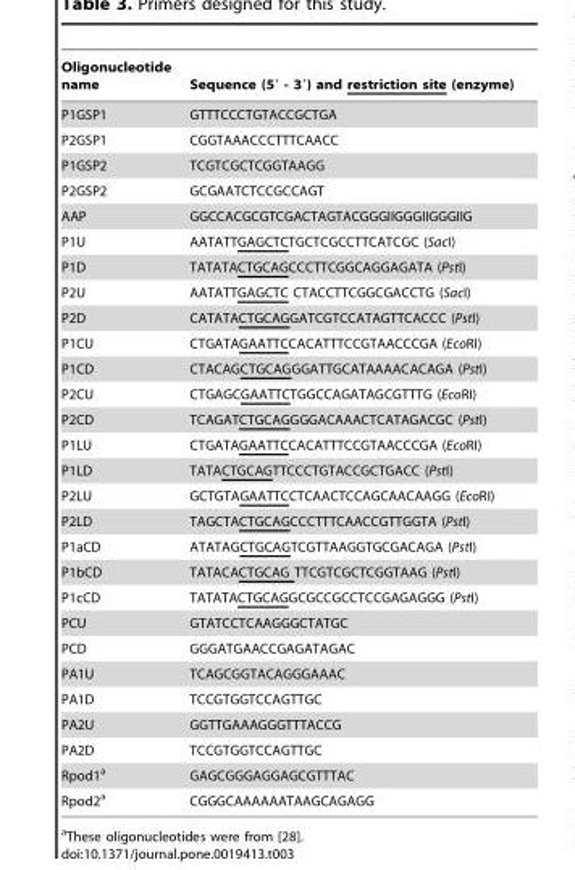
<table><thead><tr><td>Oligonucleotide name</td><td>Sequence (5′ - 3′) and restriction site (enzyme)</td></tr></thead><tbody><tr><td>P1GSP1</td><td>GTTTCCCTGTACCGCTGA</td></tr><tr><td>P2GSP1</td><td>CGGTAAACCCTTTCAACC</td></tr><tr><td>P1GSP2</td><td>TCGTCGCTCGGTAAGG</td></tr><tr><td>P2GSP2</td><td>GCGAATCTCCGCCAGT</td></tr><tr><td>AAP</td><td>GGCCACGCGTCGACTAGTACGGGIIGGGIIGGGIIG</td></tr><tr><td>P1U</td><td>AATATTGAGCTCTGCTCGCCTTCATCGC (SacI)</td></tr><tr><td>P1D</td><td>TATATACTGCAGCCCTTCGGCAGGAGATA (PstI)</td></tr><tr><td>P2U</td><td>AATATTGAGCTC CTACCTTCGGCGACCTG (SacI)</td></tr><tr><td>P2D</td><td>CATATACTGCAGGATCGTCCATAGTTCACCC (PstI)</td></tr><tr><td>P1CU</td><td>CTGATAGAATTCCACATTTCCGTAACCCGA (EcoRI)</td></tr><tr><td>P1CD</td><td>CTACAGCTGCAGGGATTGCATAAAACACAGA (PstI)</td></tr><tr><td>P2CU</td><td>CTGAGCGAATTCTGGCCAGATAGCGTTTG (EcoRI)</td></tr><tr><td>P2CD</td><td>TCAGATCTGCAGGGGACAAACTCATAGACGC (PstI)</td></tr><tr><td>P1LU</td><td>CTGATAGAATTCCACATTTCCGTAACCCGA (EcoRI)</td></tr><tr><td>P1LD</td><td>TATACTGCAGTTCCCTGTACCGCTGACC (PstI)</td></tr><tr><td>P2LU</td><td>GCTGTAGAATTCCTCAACTCCAGCAACAAGG (EcoRI)</td></tr><tr><td>P2LD</td><td>TAGCTACTGCAGCCCTTTCAACCGTTGGTA (PstI)</td></tr><tr><td>P1aCD</td><td>ATATAGCTGCAGTCGTTAAGGTGCGACAGA (PstI)</td></tr><tr><td>P1bCD</td><td>TATACACTGCAG TTCGTCGCTCGGTAAG (PstI)</td></tr><tr><td>P1cCD</td><td>TATATACTGCAGGCGCCGCCTCCGAGAGGG (PstI)</td></tr><tr><td>PCU</td><td>GTATCCTCAAGGGCTATGC</td></tr><tr><td>PCD</td><td>GGGATGAACCGAGATAGAC</td></tr><tr><td>PA1U</td><td>TCAGCGGTACAGGGAAAC</td></tr><tr><td>PA1D</td><td>TCCGTGGTCCAGTTGC</td></tr><tr><td>PA2U</td><td>GGTTGAAAGGGTTTACCG</td></tr><tr><td>PA2D</td><td>TCCGTGGTCCAGTTGC</td></tr><tr><td>Rpod1<sup>a</sup></td><td>GAGCGGGAGGAGCGTTTAC</td></tr><tr><td>Rpod2<sup>a</sup></td><td>CGGGCAAAAAATAAGCAGAGG</td></tr></tbody></table>